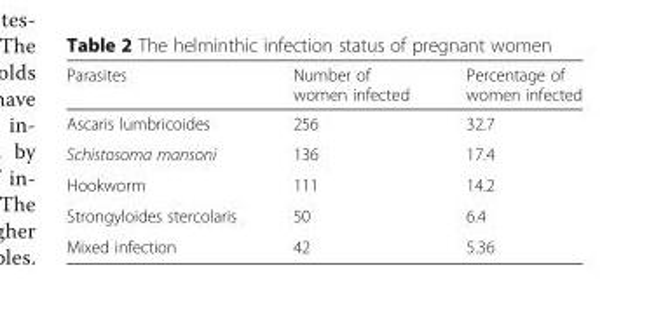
<table><thead><tr><td>Parasites</td><td>Number of women infected</td><td>Percentage of women infected</td></tr></thead><tbody><tr><td>Ascaris lumbricoides</td><td>256</td><td>32.7</td></tr><tr><td>Schistosoma mansoni</td><td>136</td><td>17.4</td></tr><tr><td>Hookworm</td><td>111</td><td>14.2</td></tr><tr><td>Strongyloides stercolaris</td><td>50</td><td>6.4</td></tr><tr><td>Mixed infection</td><td>42</td><td>5.36</td></tr></tbody></table>